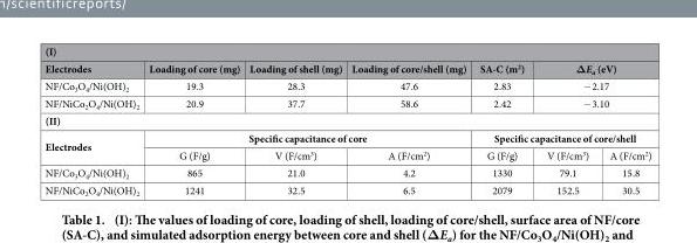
<table><thead><tr><td colspan="7">(I)</td></tr><tr><td>Electrodes</td><td>Loading of core (mg)</td><td>Loading of shell (mg)</td><td>Loading of core/shell (mg)</td><td>SA-C (m<sup>2</sup>)</td><td colspan="2">ΔE<sub>a</sub> (eV)</td></tr></thead><tbody><tr><td>NF/Co<sub>3</sub>O<sub>4</sub>/Ni(OH)<sub>2</sub></td><td>19.3</td><td>28.3</td><td>47.6</td><td>2.83</td><td colspan="2">− 2.17</td></tr><tr><td>NF/NiCo<sub>2</sub>O<sub>4</sub>/Ni(OH)<sub>2</sub></td><td>20.9</td><td>37.7</td><td>58.6</td><td>2.42</td><td colspan="2">− 3.10</td></tr><tr><td colspan="7">(II)</td></tr><tr><td rowspan="2">Electrodes</td><td colspan="3">Specific capacitance of core</td><td colspan="3">Specific capacitance of core/shell</td></tr><tr><td>G (F/g)</td><td>V (F/cm<sup>3</sup>)</td><td>A (F/cm<sup>2</sup>)</td><td>G (F/g)</td><td>V (F/cm<sup>3</sup>)</td><td>A (F/cm<sup>2</sup>)</td></tr><tr><td>NF/Co<sub>3</sub>O<sub>4</sub>/Ni(OH)<sub>2</sub></td><td>865</td><td>21.0</td><td>4.2</td><td>1330</td><td>79.1</td><td>15.8</td></tr><tr><td>NF/NiCo<sub>2</sub>O<sub>4</sub>/Ni(OH)<sub>2</sub></td><td>1241</td><td>32.5</td><td>6.5</td><td>2079</td><td>152.5</td><td>30.5</td></tr></tbody></table>